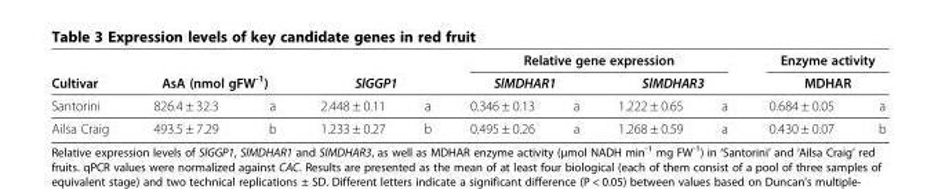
<table><thead><tr><td rowspan="3">Cultivar Santorini</td><td></td><td></td><td></td><td></td><td colspan="4">Relative gene expression</td><td rowspan="2" colspan="2">Enzyme activity MDHAR</td></tr><tr><td colspan="2">AsA (nmol gFW<sup>-1</sup>)</td><td colspan="2">SlGGP1</td><td colspan="2">SlMDHAR1</td><td colspan="2">SlMDHAR3</td></tr><tr><td>826.4 ± 32.3</td><td>a</td><td>2.448 ± 0.11</td><td>a</td><td>0.346 ± 0.13</td><td>a</td><td>1.222 ± 0.65</td><td>a</td><td>0.684 ± 0.05</td><td>a</td></tr></thead><tbody><tr><td>Ailsa Craig</td><td>493.5 ± 7.29</td><td>b</td><td>1.233 ± 0.27</td><td>b</td><td>0.495 ± 0.26</td><td>a</td><td>1.268 ± 0.59</td><td>a</td><td>0.430 ± 0.07</td><td>b</td></tr></tbody></table>